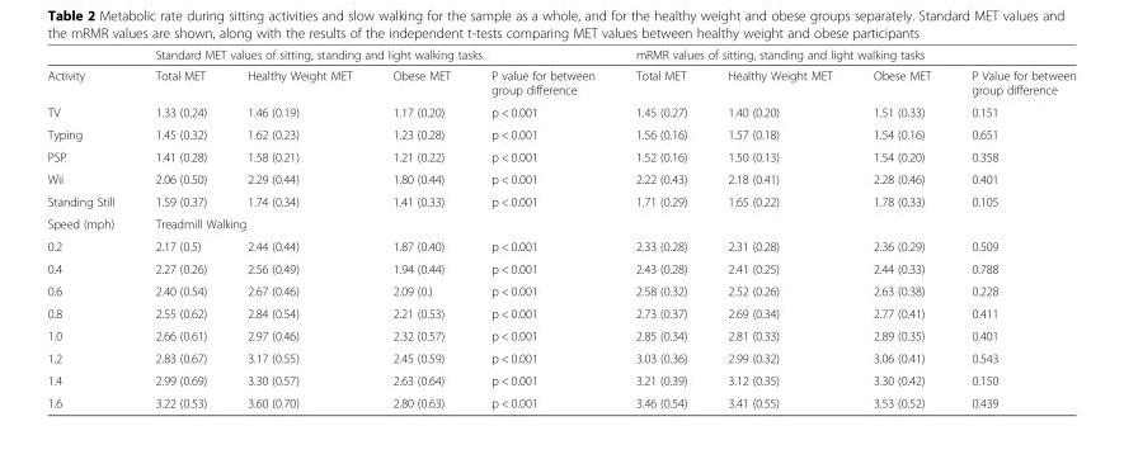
<table><thead><tr><td rowspan="2">Activity</td><td colspan="4">Standard MET values of sitting, standing and light walking tasks</td><td colspan="4">mRMR values of sitting, standing and light walking tasks</td></tr><tr><td>Total MET</td><td>Healthy Weight MET</td><td>Obese MET</td><td>P value for between group difference</td><td>Total MET</td><td>Healthy Weight MET</td><td>Obese MET</td><td>P Value for between group difference</td></tr></thead><tbody><tr><td>TV</td><td>1.33 (0.24)</td><td>1.46 (0.19)</td><td>1.17 (0.20)</td><td>p &lt; 0.001</td><td>1.45 (0.27)</td><td>1.40 (0.20)</td><td>1.51 (0.33)</td><td>0.151</td></tr><tr><td>Typing</td><td>1.45 (0.32)</td><td>1.62 (0.23)</td><td>1.23 (0.28)</td><td>p &lt; 0.001</td><td>1.56 (0.16)</td><td>1.57 (0.18)</td><td>1.54 (0.16)</td><td>0.651</td></tr><tr><td>PSP</td><td>1.41 (0.28)</td><td>1.58 (0.21)</td><td>1.21 (0.22)</td><td>p &lt; 0.001</td><td>1.52 (0.16)</td><td>1.50 (0.13)</td><td>1.54 (0.20)</td><td>0.358</td></tr><tr><td>Wii</td><td>2.06 (0.50)</td><td>2.29 (0.44)</td><td>1.80 (0.44)</td><td>p &lt; 0.001</td><td>2.22 (0.43)</td><td>2.18 (0.41)</td><td>2.28 (0.46)</td><td>0.401</td></tr><tr><td>Standing Still</td><td>1.59 (0.37)</td><td>1.74 (0.34)</td><td>1.41 (0.33)</td><td>p &lt; 0.001</td><td>1.71 (0.29)</td><td>1.65 (0.22)</td><td>1.78 (0.33)</td><td>0.105</td></tr><tr><td>Speed (mph)</td><td colspan="8">Treadmill Walking</td></tr><tr><td>0.2</td><td>2.17 (0.5)</td><td>2.44 (0.44)</td><td>1.87 (0.40)</td><td>p &lt; 0.001</td><td>2.33 (0.28)</td><td>2.31 (0.28)</td><td>2.36 (0.29)</td><td>0.509</td></tr><tr><td>0.4</td><td>2.27 (0.26)</td><td>2.56 (0.49)</td><td>1.94 (0.44)</td><td>p &lt; 0.001</td><td>2.43 (0.28)</td><td>2.41 (0.25)</td><td>2.44 (0.33)</td><td>0.788</td></tr><tr><td>0.6</td><td>2.40 (0.54)</td><td>2.67 (0.46)</td><td>2.09 (0.)</td><td>p &lt; 0.001</td><td>2.58 (0.32)</td><td>2.52 (0.26)</td><td>2.63 (0.38)</td><td>0.228</td></tr><tr><td>0.8</td><td>2.55 (0.62)</td><td>2.84 (0.54)</td><td>2.21 (0.53)</td><td>p &lt; 0.001</td><td>2.73 (0.37)</td><td>2.69 (0.34)</td><td>2.77 (0.41)</td><td>0.411</td></tr><tr><td>1.0</td><td>2.66 (0.61)</td><td>2.97 (0.46)</td><td>2.32 (0.57)</td><td>p &lt; 0.001</td><td>2.85 (0.34)</td><td>2.81 (0.33)</td><td>2.89 (0.35)</td><td>0.401</td></tr><tr><td>1.2</td><td>2.83 (0.67)</td><td>3.17 (0.55)</td><td>2.45 (0.59)</td><td>p &lt; 0.001</td><td>3.03 (0.36)</td><td>2.99 (0.32)</td><td>3.06 (0.41)</td><td>0.543</td></tr><tr><td>1.4</td><td>2.99 (0.69)</td><td>3.30 (0.57)</td><td>2.63 (0.64)</td><td>p &lt; 0.001</td><td>3.21 (0.39)</td><td>3.12 (0.35)</td><td>3.30 (0.42)</td><td>0.150</td></tr><tr><td>1.6</td><td>3.22 (0.53)</td><td>3.60 (0.70)</td><td>2.80 (0.63)</td><td>p &lt; 0.001</td><td>3.46 (0.54)</td><td>3.41 (0.55)</td><td>3.53 (0.52)</td><td>0.439</td></tr></tbody></table>